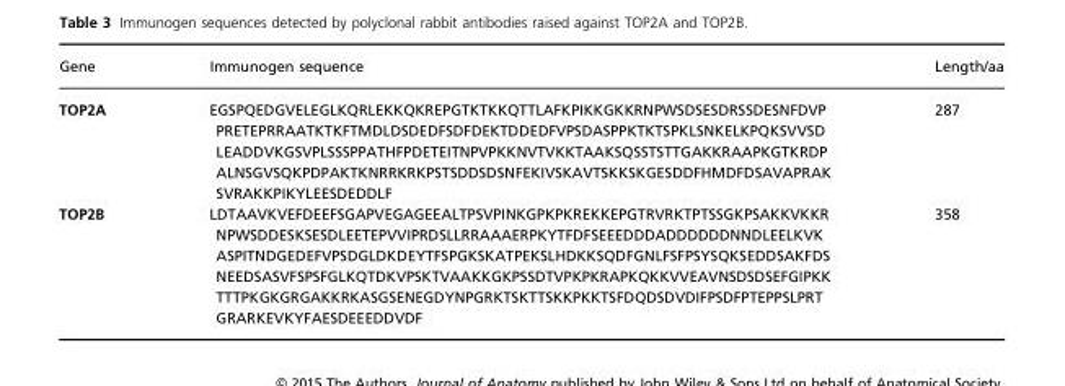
<table><thead><tr><td>Gene</td><td>Immunogen sequence</td><td>Length/aa</td></tr></thead><tbody><tr><td>TOP2A</td><td>EGSPQEDGVELEGLKQRLEKKQKREPGTKTKKQTTLAFKPIKKGKKRNPWSDSESDRSSDESNFDVP PRETEPRRAATKTKFTMDLDSDEDFSDFDEKTDDEDFVPSDASPPKTKTSPKLSNKELKPQKSVVSD LEADDVKGSVPLSSSPPATHFPDETEITNPVPKKNVTVKKTAAKSQSSTSTTGAKKRAAPKGTKRDP ALNSGVSQKPDPAKTKNRRKRKPSTSDDSDSNFEKIVSKAVTSKKSKGESDDFHMDFDSAVAPRAK SVRAKKPIKYLEESDEDDLF</td><td>287</td></tr><tr><td>TOP2B</td><td>LDTAAVKVEFDEEFSGAPVEGAGEEALTPSVPINKGPKPKREKKEPGTRVRKTPTSSGKPSAKKVKKR NPWSDDESKSESDLEETEPVVIPRDSLLRRAAAERPKYTFDFSEEEDDDADDDDDDNNDLEELKVK ASPITNDGEDEFVPSDGLDKDEYTFSPGKSKATPEKSLHDKKSQDFGNLFSFPSYSQKSEDDSAKFDS NEEDSASVFSPSFGLKQTDKVPSKTVAAKKGKPSSDTVPKPKRAPKQKKVVEAVNSDSDSEFGIPKK TTTPKGKGRGAKKRKASGSENEGDYNPGRKTSKTTSKKPKKTSFDQDSDVDIFPSDFPTEPPSLPRT GRARKEVKYFAESDEEEDDVDF</td><td>358</td></tr></tbody></table>